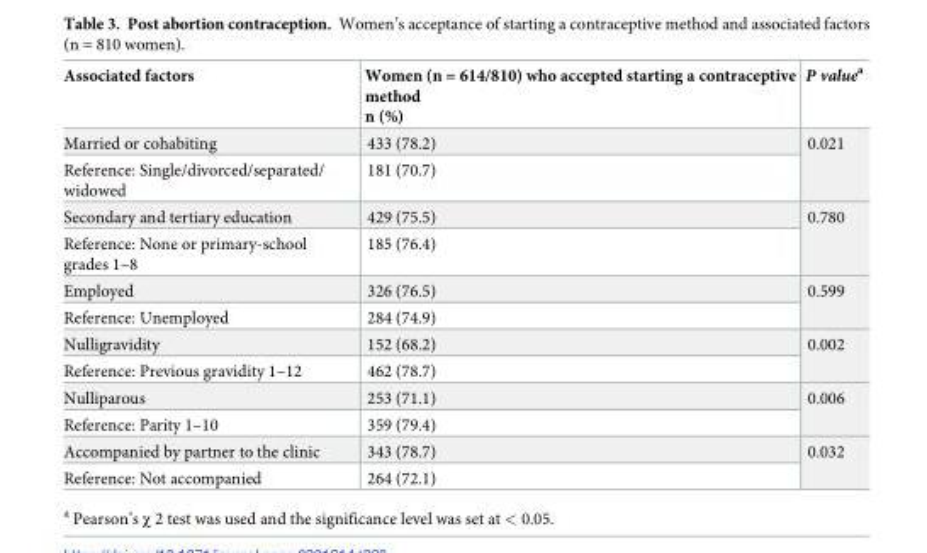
<table><thead><tr><td>Associated factors</td><td>Women (n = 614/810) who accepted starting a contraceptive method n (%)</td><td>P value<sup>a</sup></td></tr></thead><tbody><tr><td>Married or cohabiting</td><td>433 (78.2)</td><td rowspan="2">0.021</td></tr><tr><td>Reference: Single/divorced/separated/ widowed</td><td>181 (70.7)</td></tr><tr><td>Secondary and tertiary education</td><td>429 (75.5)</td><td rowspan="2">0.780</td></tr><tr><td>Reference: None or primary-school grades 1–8</td><td>185 (76.4)</td></tr><tr><td>Employed</td><td>326 (76.5)</td><td rowspan="2">0.599</td></tr><tr><td>Reference: Unemployed</td><td>284 (74.9)</td></tr><tr><td>Nulligravidity</td><td>152 (68.2)</td><td rowspan="2">0.002</td></tr><tr><td>Reference: Previous gravidity 1–12</td><td>462 (78.7)</td></tr><tr><td>Nulliparous</td><td>253 (71.1)</td><td rowspan="2">0.006</td></tr><tr><td>Reference: Parity 1–10</td><td>359 (79.4)</td></tr><tr><td>Accompanied by partner to the clinic</td><td>343 (78.7)</td><td rowspan="2">0.032</td></tr><tr><td>Reference: Not accompanied</td><td>264 (72.1)</td></tr></tbody></table>